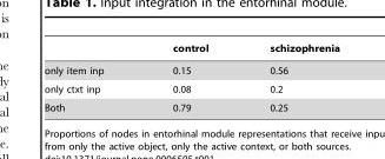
<table><thead><tr><td></td><td>control</td><td>schizophrenia</td></tr></thead><tbody><tr><td>only item inp</td><td>0.15</td><td>0.56</td></tr><tr><td>only ctxt inp</td><td>0.08</td><td>0.2</td></tr><tr><td>Both</td><td>0.79</td><td>0.25</td></tr></tbody></table>